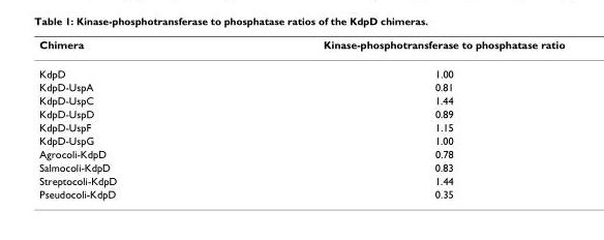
<table><thead><tr><td>Chimera</td><td>Kinase-phosphotransferase to phosphatase ratio</td></tr></thead><tbody><tr><td>KdpD</td><td>1.00</td></tr><tr><td>KdpD-UspA</td><td>0.81</td></tr><tr><td>KdpD-UspC</td><td>1.44</td></tr><tr><td>KdpD-UspD</td><td>0.89</td></tr><tr><td>KdpD-UspF</td><td>1.15</td></tr><tr><td>KdpD-UspG</td><td>1.00</td></tr><tr><td>Agrocoli-KdpD</td><td>0.78</td></tr><tr><td>Salmocoli-KdpD</td><td>0.83</td></tr><tr><td>Streptocoli-KdpD</td><td>1.44</td></tr><tr><td>Pseudocoli-KdpD</td><td>0.35</td></tr></tbody></table>